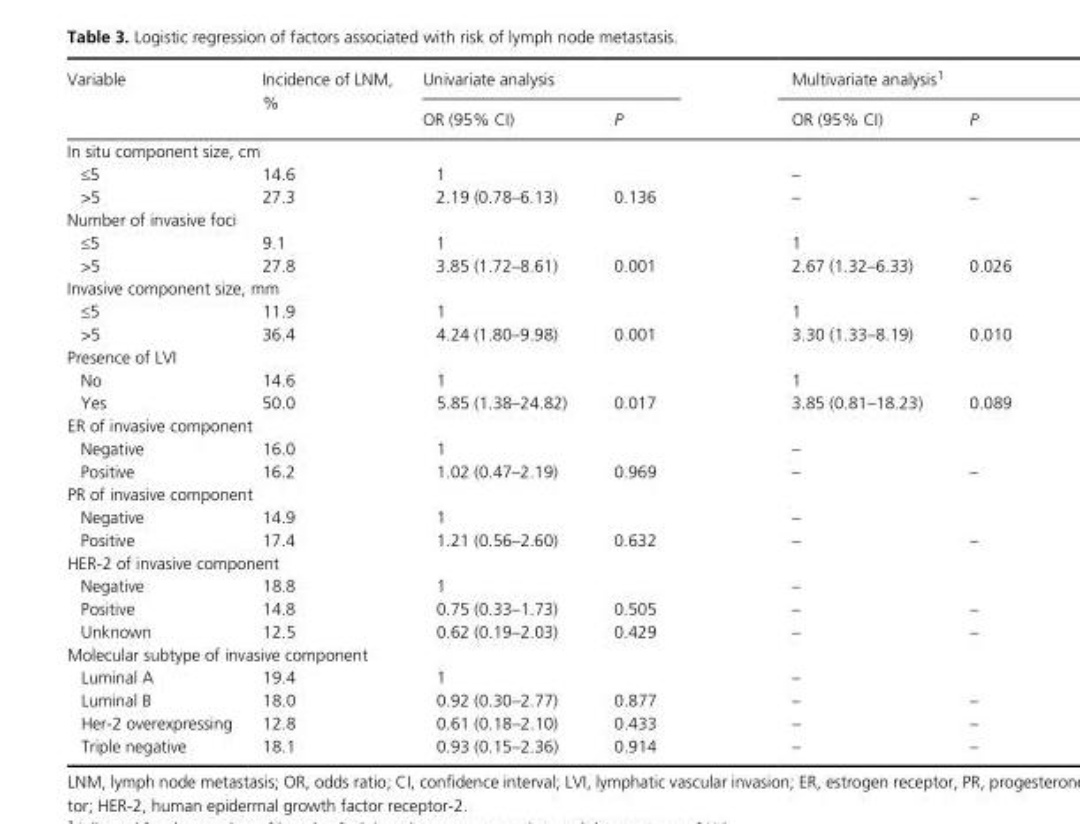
<table><thead><tr><td rowspan="2">Variable</td><td rowspan="2">Incidence of LNM, %</td><td colspan="2">Univariate analysis</td><td colspan="2">Multivariate analysis1</td></tr><tr><td>OR (95% CI)</td><td>P</td><td>OR (95% CI)</td><td>P</td></tr></thead><tbody><tr><td colspan="6">In situ component size, cm</td></tr><tr><td>≤5</td><td>14.6</td><td>1</td><td></td><td>–</td><td></td></tr><tr><td>&gt;5</td><td>27.3</td><td>2.19 (0.78–6.13)</td><td>0.136</td><td>–</td><td>–</td></tr><tr><td colspan="6">Number of invasive foci</td></tr><tr><td>≤5</td><td>9.1</td><td>1</td><td></td><td>1</td><td></td></tr><tr><td>&gt;5</td><td>27.8</td><td>3.85 (1.72–8.61)</td><td>0.001</td><td>2.67 (1.32–6.33)</td><td>0.026</td></tr><tr><td colspan="6">Invasive component size, mm</td></tr><tr><td>≤5</td><td>11.9</td><td>1</td><td></td><td>1</td><td></td></tr><tr><td>&gt;5</td><td>36.4</td><td>4.24 (1.80–9.98)</td><td>0.001</td><td>3.30 (1.33–8.19)</td><td>0.010</td></tr><tr><td colspan="6">Presence of LVI</td></tr><tr><td>No</td><td>14.6</td><td>1</td><td></td><td>1</td><td></td></tr><tr><td>Yes</td><td>50.0</td><td>5.85 (1.38–24.82)</td><td>0.017</td><td>3.85 (0.81–18.23)</td><td>0.089</td></tr><tr><td colspan="6">ER of invasive component</td></tr><tr><td>Negative</td><td>16.0</td><td>1</td><td></td><td>–</td><td></td></tr><tr><td>Positive</td><td>16.2</td><td>1.02 (0.47–2.19)</td><td>0.969</td><td>–</td><td>–</td></tr><tr><td colspan="6">PR of invasive component</td></tr><tr><td>Negative</td><td>14.9</td><td>1</td><td></td><td>–</td><td></td></tr><tr><td>Positive</td><td>17.4</td><td>1.21 (0.56–2.60)</td><td>0.632</td><td>–</td><td>–</td></tr><tr><td colspan="6">HER- 2 of invasive component</td></tr><tr><td>Negative</td><td>18.8</td><td>1</td><td></td><td>–</td><td></td></tr><tr><td>Positive</td><td>14.8</td><td>0.75 (0.33–1.73)</td><td>0.505</td><td>–</td><td>–</td></tr><tr><td>Unknown</td><td>12.5</td><td>0.62 (0.19–2.03)</td><td>0.429</td><td>–</td><td>–</td></tr><tr><td colspan="6">Molecular subtype of invasive component</td></tr><tr><td>Luminal A</td><td>19.4</td><td>1</td><td></td><td>–</td><td></td></tr><tr><td>Luminal B</td><td>18.0</td><td>0.92 (0.30–2.77)</td><td>0.877</td><td>–</td><td>–</td></tr><tr><td>Her- 2 overexpressing</td><td>12.8</td><td>0.61 (0.18–2.10)</td><td>0.433</td><td>–</td><td>–</td></tr><tr><td>Triple negative</td><td>18.1</td><td>0.93 (0.15–2.36)</td><td>0.914</td><td>–</td><td>–</td></tr></tbody></table>